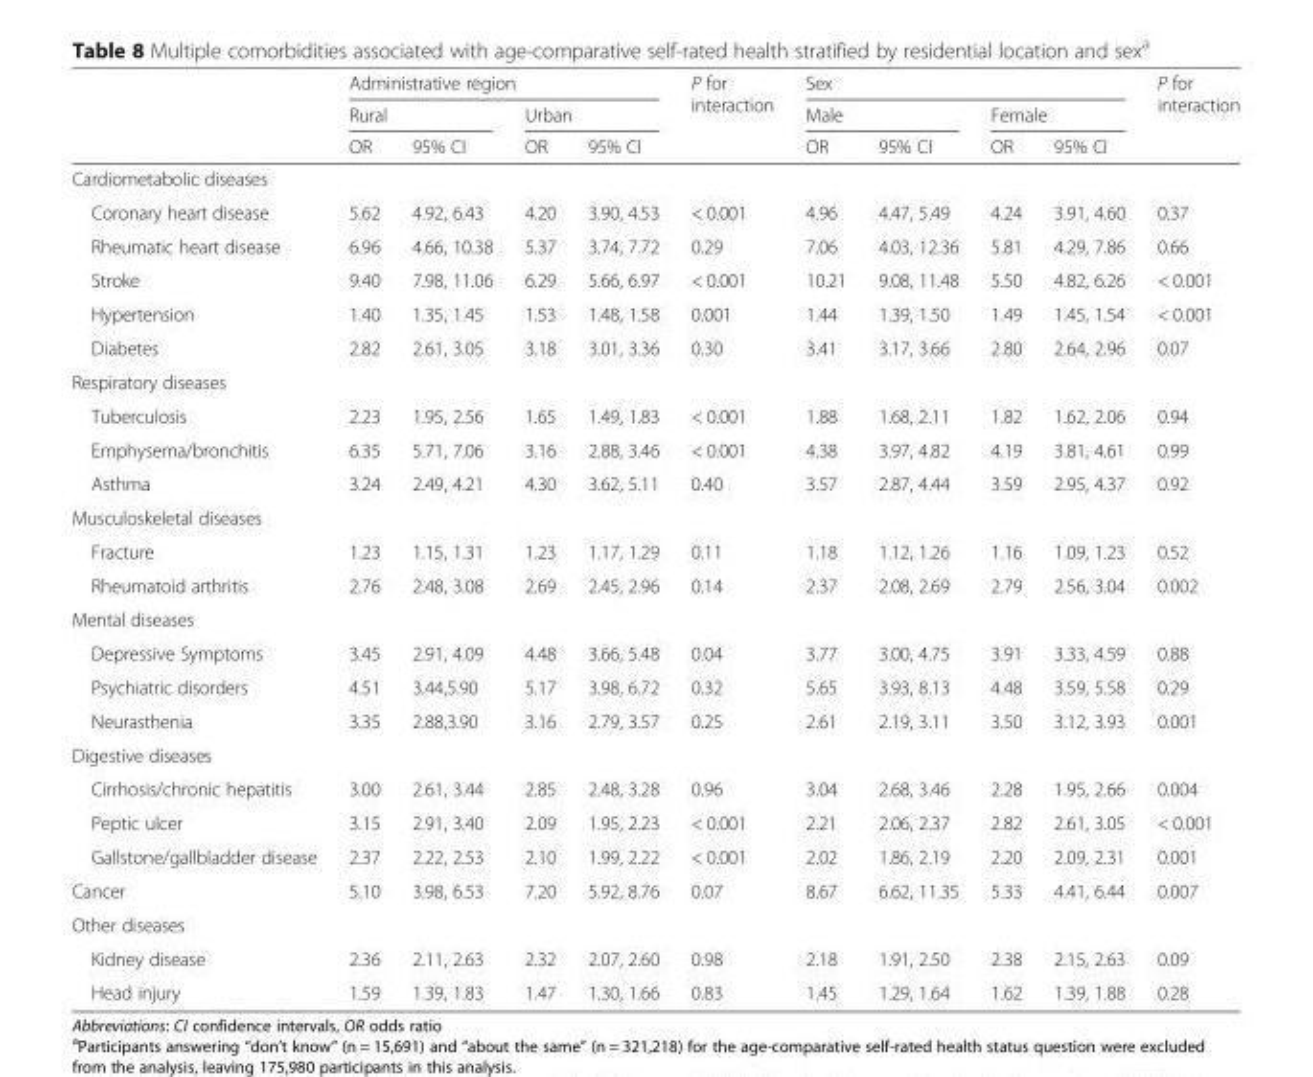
<table><thead><tr><td rowspan="3"></td><td colspan="4">Administrative region</td><td rowspan="3">P for interaction</td><td colspan="4">Sex</td><td rowspan="3">P for interaction</td></tr><tr><td colspan="2">Rural</td><td colspan="2">Urban</td><td colspan="2">Male</td><td colspan="2">Female</td></tr><tr><td>OR</td><td>95% CI</td><td>OR</td><td>95% CI</td><td>OR</td><td>95% CI</td><td>OR</td><td>95% CI</td></tr></thead><tbody><tr><td colspan="11">Cardiometabolic diseases</td></tr><tr><td>Coronary heart disease</td><td>5.62</td><td>4.92, 6.43</td><td>4.20</td><td>3.90, 4.53</td><td>&lt; 0.001</td><td>4.96</td><td>4.47, 5.49</td><td>4.24</td><td>3.91, 4.60</td><td>0.37</td></tr><tr><td>Rheumatic heart disease</td><td>6.96</td><td>4.66, 10.38</td><td>5.37</td><td>3.74, 7.72</td><td>0.29</td><td>7.06</td><td>4.03, 12.36</td><td>5.81</td><td>4.29, 7.86</td><td>0.66</td></tr><tr><td>Stroke</td><td>9.40</td><td>7.98, 11.06</td><td>6.29</td><td>5.66, 6.97</td><td>&lt; 0.001</td><td>10.21</td><td>9.08, 11.48</td><td>5.50</td><td>4.82, 6.26</td><td>&lt; 0.001</td></tr><tr><td>Hypertension</td><td>1.40</td><td>1.35, 1.45</td><td>1.53</td><td>1.48, 1.58</td><td>0.001</td><td>1.44</td><td>1.39, 1.50</td><td>1.49</td><td>1.45, 1.54</td><td>&lt; 0.001</td></tr><tr><td>Diabetes</td><td>2.82</td><td>2.61, 3.05</td><td>3.18</td><td>3.01, 3.36</td><td>0.30</td><td>3.41</td><td>3.17, 3.66</td><td>2.80</td><td>2.64, 2.96</td><td>0.07</td></tr><tr><td colspan="11">Respiratory diseases</td></tr><tr><td>Tuberculosis</td><td>2.23</td><td>1.95, 2.56</td><td>1.65</td><td>1.49, 1.83</td><td>&lt; 0.001</td><td>1.88</td><td>1.68, 2.11</td><td>1.82</td><td>1.62, 2.06</td><td>0.94</td></tr><tr><td>Emphysema/bronchitis</td><td>6.35</td><td>5.71, 7.06</td><td>3.16</td><td>2.88, 3.46</td><td>&lt; 0.001</td><td>4.38</td><td>3.97, 4.82</td><td>4.19</td><td>3.81, 4.61</td><td>0.99</td></tr><tr><td>Asthma</td><td>3.24</td><td>2.49, 4.21</td><td>4.30</td><td>3.62, 5.11</td><td>0.40</td><td>3.57</td><td>2.87, 4.44</td><td>3.59</td><td>2.95, 4.37</td><td>0.92</td></tr><tr><td colspan="11">Musculoskeletal diseases</td></tr><tr><td>Fracture</td><td>1.23</td><td>1.15, 1.31</td><td>1.23</td><td>1.17, 1.29</td><td>0.11</td><td>1.18</td><td>1.12, 1.26</td><td>1.16</td><td>1.09, 1.23</td><td>0.52</td></tr><tr><td>Rheumatoid arthritis</td><td>2.76</td><td>2.48, 3.08</td><td>2.69</td><td>2.45, 2.96</td><td>0.14</td><td>2.37</td><td>2.08, 2.69</td><td>2.79</td><td>2.56, 3.04</td><td>0.002</td></tr><tr><td colspan="11">Mental diseases</td></tr><tr><td>Depressive Symptoms</td><td>3.45</td><td>2.91, 4.09</td><td>4.48</td><td>3.66, 5.48</td><td>0.04</td><td>3.77</td><td>3.00, 4.75</td><td>3.91</td><td>3.33, 4.59</td><td>0.88</td></tr><tr><td>Psychiatric disorders</td><td>4.51</td><td>3.44,5.90</td><td>5.17</td><td>3.98, 6.72</td><td>0.32</td><td>5.65</td><td>3.93, 8.13</td><td>4.48</td><td>3.59, 5.58</td><td>0.29</td></tr><tr><td>Neurasthenia</td><td>3.35</td><td>2.88,3.90</td><td>3.16</td><td>2.79, 3.57</td><td>0.25</td><td>2.61</td><td>2.19, 3.11</td><td>3.50</td><td>3.12, 3.93</td><td>0.001</td></tr><tr><td colspan="11">Digestive diseases</td></tr><tr><td>Cirrhosis/chronic hepatitis</td><td>3.00</td><td>2.61, 3.44</td><td>2.85</td><td>2.48, 3.28</td><td>0.96</td><td>3.04</td><td>2.68, 3.46</td><td>2.28</td><td>1.95, 2.66</td><td>0.004</td></tr><tr><td>Peptic ulcer</td><td>3.15</td><td>2.91, 3.40</td><td>2.09</td><td>1.95, 2.23</td><td>&lt; 0.001</td><td>2.21</td><td>2.06, 2.37</td><td>2.82</td><td>2.61, 3.05</td><td>&lt; 0.001</td></tr><tr><td>Gallstone/gallbladder disease</td><td>2.37</td><td>2.22, 2.53</td><td>2.10</td><td>1.99, 2.22</td><td>&lt; 0.001</td><td>2.02</td><td>1.86, 2.19</td><td>2.20</td><td>2.09, 2.31</td><td>0.001</td></tr><tr><td>Cancer</td><td>5.10</td><td>3.98, 6.53</td><td>7.20</td><td>5.92, 8.76</td><td>0.07</td><td>8.67</td><td>6.62, 11.35</td><td>5.33</td><td>4.41, 6.44</td><td>0.007</td></tr><tr><td colspan="11">Other diseases</td></tr><tr><td>Kidney disease</td><td>2.36</td><td>2.11, 2.63</td><td>2.32</td><td>2.07, 2.60</td><td>0.98</td><td>2.18</td><td>1.91, 2.50</td><td>2.38</td><td>2.15, 2.63</td><td>0.09</td></tr><tr><td>Head injury</td><td>1.59</td><td>1.39, 1.83</td><td>1.47</td><td>1.30, 1.66</td><td>0.83</td><td>1.45</td><td>1.29, 1.64</td><td>1.62</td><td>1.39, 1.88</td><td>0.28</td></tr></tbody></table>